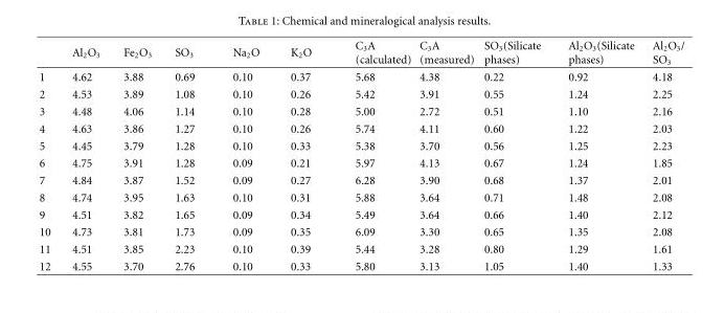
<table><thead><tr><td></td><td>Al<sub>2</sub>O<sub>3</sub></td><td>Fe<sub>2</sub>O<sub>3</sub></td><td>SO<sub>3</sub></td><td>Na<sub>2</sub>O</td><td>K<sub>2</sub>O</td><td>C<sub>3</sub>A (calculated)</td><td>C<sub>3</sub>A (measured)</td><td>SO<sub>3</sub>(Silicate phases)</td><td>Al<sub>2</sub>O<sub>3</sub>(Silicate phases)</td><td>Al<sub>2</sub>O<sub>3</sub>/ SO<sub>3</sub></td></tr></thead><tbody><tr><td>1</td><td>4.62</td><td>3.88</td><td>0.69</td><td>0.10</td><td>0.37</td><td>5.68</td><td>4.38</td><td>0.22</td><td>0.92</td><td>4.18</td></tr><tr><td>2</td><td>4.53</td><td>3.89</td><td>1.08</td><td>0.10</td><td>0.26</td><td>5.42</td><td>3.91</td><td>0.55</td><td>1.24</td><td>2.25</td></tr><tr><td>3</td><td>4.48</td><td>4.06</td><td>1.14</td><td>0.10</td><td>0.28</td><td>5.00</td><td>2.72</td><td>0.51</td><td>1.10</td><td>2.16</td></tr><tr><td>4</td><td>4.63</td><td>3.86</td><td>1.27</td><td>0.10</td><td>0.26</td><td>5.74</td><td>4.11</td><td>0.60</td><td>1.22</td><td>2.03</td></tr><tr><td>5</td><td>4.45</td><td>3.79</td><td>1.28</td><td>0.10</td><td>0.33</td><td>5.38</td><td>3.70</td><td>0.56</td><td>1.25</td><td>2.23</td></tr><tr><td>6</td><td>4.75</td><td>3.91</td><td>1.28</td><td>0.09</td><td>0.21</td><td>5.97</td><td>4.13</td><td>0.67</td><td>1.24</td><td>1.85</td></tr><tr><td>7</td><td>4.84</td><td>3.87</td><td>1.52</td><td>0.09</td><td>0.27</td><td>6.28</td><td>3.90</td><td>0.68</td><td>1.37</td><td>2.01</td></tr><tr><td>8</td><td>4.74</td><td>3.95</td><td>1.63</td><td>0.10</td><td>0.31</td><td>5.88</td><td>3.64</td><td>0.71</td><td>1.48</td><td>2.08</td></tr><tr><td>9</td><td>4.51</td><td>3.82</td><td>1.65</td><td>0.09</td><td>0.34</td><td>5.49</td><td>3.64</td><td>0.66</td><td>1.40</td><td>2.12</td></tr><tr><td>10</td><td>4.73</td><td>3.81</td><td>1.73</td><td>0.09</td><td>0.35</td><td>6.09</td><td>3.30</td><td>0.65</td><td>1.35</td><td>2.08</td></tr><tr><td>11</td><td>4.51</td><td>3.85</td><td>2.23</td><td>0.10</td><td>0.39</td><td>5.44</td><td>3.28</td><td>0.80</td><td>1.29</td><td>1.61</td></tr><tr><td>12</td><td>4.55</td><td>3.70</td><td>2.76</td><td>0.10</td><td>0.33</td><td>5.80</td><td>3.13</td><td>1.05</td><td>1.40</td><td>1.33</td></tr></tbody></table>